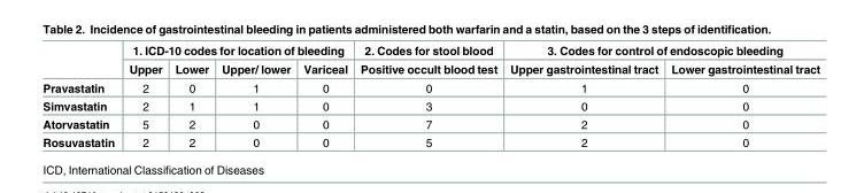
<table><thead><tr><td rowspan="2"></td><td colspan="4">1. ICD-10 codes for location of bleeding</td><td rowspan="2">2. Codes for stool blood Positive occult blood test</td><td colspan="2">3. Codes for control of endoscopic bleeding</td></tr><tr><td>Upper</td><td>Lower</td><td>Upper/ lower</td><td>Variceal</td><td>Upper gastrointestinal tract</td><td>Lower gastrointestinal tract</td></tr></thead><tbody><tr><td>Pravastatin</td><td>2</td><td>0</td><td>1</td><td>0</td><td>0</td><td>1</td><td>0</td></tr><tr><td>Simvastatin</td><td>2</td><td>1</td><td>1</td><td>0</td><td>3</td><td>0</td><td>0</td></tr><tr><td>Atorvastatin</td><td>5</td><td>2</td><td>0</td><td>0</td><td>7</td><td>2</td><td>0</td></tr><tr><td>Rosuvastatin</td><td>2</td><td>2</td><td>0</td><td>0</td><td>5</td><td>2</td><td>0</td></tr></tbody></table>